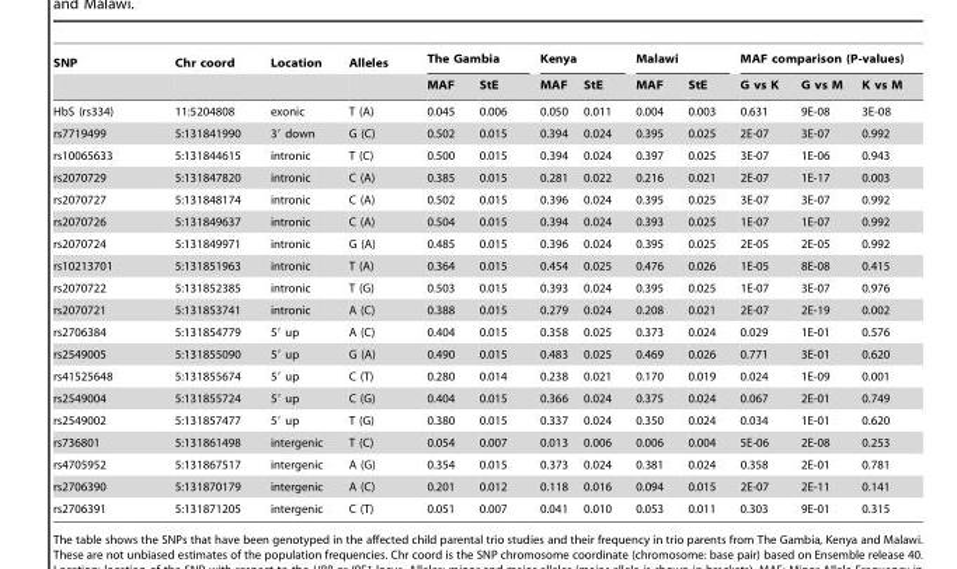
<table><thead><tr><td rowspan="2">SNP</td><td rowspan="2">Chr coord</td><td rowspan="2">Location</td><td rowspan="2">Alleles</td><td colspan="2">The Gambia</td><td colspan="2">Kenya</td><td colspan="2">Malawi</td><td colspan="3">MAF comparison (P-values)</td></tr><tr><td>MAF</td><td>StE</td><td>MAF</td><td>StE</td><td>MAF</td><td>StE</td><td>G vs K</td><td>G vs M</td><td>K vs M</td></tr></thead><tbody><tr><td>HbS (rs334)</td><td>11:5204808</td><td>exonic</td><td>T (A)</td><td>0.045</td><td>0.006</td><td>0.050</td><td>0.011</td><td>0.004</td><td>0.003</td><td>0.631</td><td>9E-08</td><td>3E-08</td></tr><tr><td>rs7719499</td><td>5:131841990</td><td>3′ down</td><td>G (C)</td><td>0.502</td><td>0.015</td><td>0.394</td><td>0.024</td><td>0.395</td><td>0.025</td><td>2E-07</td><td>3E-07</td><td>0.992</td></tr><tr><td>rs10065633</td><td>5:131844615</td><td>intronic</td><td>T (C)</td><td>0.500</td><td>0.015</td><td>0.394</td><td>0.024</td><td>0.397</td><td>0.025</td><td>3E-07</td><td>1E-06</td><td>0.943</td></tr><tr><td>rs2070729</td><td>5:131847820</td><td>intronic</td><td>C (A)</td><td>0.385</td><td>0.015</td><td>0.281</td><td>0.022</td><td>0.216</td><td>0.021</td><td>2E-07</td><td>1E-17</td><td>0.003</td></tr><tr><td>rs2070727</td><td>5:131848174</td><td>intronic</td><td>C (A)</td><td>0.502</td><td>0.015</td><td>0.396</td><td>0.024</td><td>0.395</td><td>0.025</td><td>3E-07</td><td>3E-07</td><td>0.992</td></tr><tr><td>rs2070726</td><td>5:131849637</td><td>intronic</td><td>C (A)</td><td>0.504</td><td>0.015</td><td>0.394</td><td>0.024</td><td>0.393</td><td>0.025</td><td>1E-07</td><td>1E-07</td><td>0.992</td></tr><tr><td>rs2070724</td><td>5:131849971</td><td>intronic</td><td>G (A)</td><td>0.485</td><td>0.015</td><td>0.396</td><td>0.024</td><td>0.395</td><td>0.025</td><td>2E-05</td><td>2E-05</td><td>0.992</td></tr><tr><td>rs10213701</td><td>5:131851963</td><td>intronic</td><td>T (A)</td><td>0.364</td><td>0.015</td><td>0.454</td><td>0.025</td><td>0.476</td><td>0.026</td><td>1E-05</td><td>8E-08</td><td>0.415</td></tr><tr><td>rs2070722</td><td>5:131852385</td><td>intronic</td><td>T (G)</td><td>0.503</td><td>0.015</td><td>0.393</td><td>0.024</td><td>0.395</td><td>0.025</td><td>1E-07</td><td>3E-07</td><td>0.976</td></tr><tr><td>rs2070721</td><td>5:131853741</td><td>intronic</td><td>A (C)</td><td>0.388</td><td>0.015</td><td>0.279</td><td>0.024</td><td>0.208</td><td>0.021</td><td>2E-07</td><td>2E-19</td><td>0.002</td></tr><tr><td>rs2706384</td><td>5:131854779</td><td>5′ up</td><td>A (C)</td><td>0.404</td><td>0.015</td><td>0.358</td><td>0.025</td><td>0.373</td><td>0.024</td><td>0.029</td><td>1E-01</td><td>0.576</td></tr><tr><td>rs2549005</td><td>5:131855090</td><td>5′ up</td><td>G (A)</td><td>0.490</td><td>0.015</td><td>0.483</td><td>0.025</td><td>0.469</td><td>0.026</td><td>0.771</td><td>3E-01</td><td>0.620</td></tr><tr><td>rs41525648</td><td>5:131855674</td><td>5′ up</td><td>C (T)</td><td>0.280</td><td>0.014</td><td>0.238</td><td>0.021</td><td>0.170</td><td>0.019</td><td>0.024</td><td>1E-09</td><td>0.001</td></tr><tr><td>rs2549004</td><td>5:131855724</td><td>5′ up</td><td>C (G)</td><td>0.404</td><td>0.015</td><td>0.366</td><td>0.024</td><td>0.375</td><td>0.024</td><td>0.067</td><td>2E-01</td><td>0.749</td></tr><tr><td>rs2549002</td><td>5:131857477</td><td>5′ up</td><td>T (G)</td><td>0.380</td><td>0.015</td><td>0.337</td><td>0.024</td><td>0.350</td><td>0.024</td><td>0.034</td><td>1E-01</td><td>0.620</td></tr><tr><td>rs736801</td><td>5:131861498</td><td>intergenic</td><td>T (C)</td><td>0.054</td><td>0.007</td><td>0.013</td><td>0.006</td><td>0.006</td><td>0.004</td><td>5E-06</td><td>2E-08</td><td>0.253</td></tr><tr><td>rs4705952</td><td>5:131867517</td><td>intergenic</td><td>A (G)</td><td>0.354</td><td>0.015</td><td>0.373</td><td>0.024</td><td>0.381</td><td>0.024</td><td>0.358</td><td>2E-01</td><td>0.781</td></tr><tr><td>rs2706390</td><td>5:131870179</td><td>intergenic</td><td>A (C)</td><td>0.201</td><td>0.012</td><td>0.118</td><td>0.016</td><td>0.094</td><td>0.015</td><td>2E-07</td><td>2E-11</td><td>0.141</td></tr><tr><td>rs2706391</td><td>5:131871205</td><td>intergenic</td><td>C (T)</td><td>0.051</td><td>0.007</td><td>0.041</td><td>0.010</td><td>0.053</td><td>0.011</td><td>0.303</td><td>9E-01</td><td>0.315</td></tr></tbody></table>